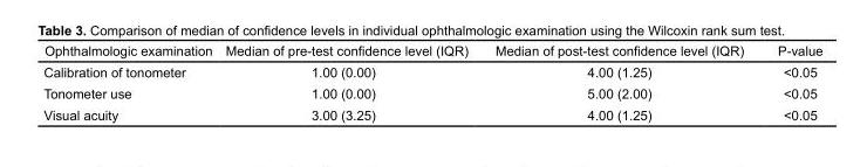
<table><thead><tr><td>Ophthalmologic examination</td><td>Median of pre-test confidence level (IQR)</td><td>Median of post-test confidence level (IQR)</td><td>P-value</td></tr></thead><tbody><tr><td>Calibration of tonometer</td><td>1.00 (0.00)</td><td>4.00 (1.25)</td><td>&lt;0.05</td></tr><tr><td>Tonometer use</td><td>1.00 (0.00)</td><td>5.00 (2.00)</td><td>&lt;0.05</td></tr><tr><td>Visual acuity</td><td>3.00 (3.25)</td><td>4.00 (1.25)</td><td>&lt;0.05</td></tr></tbody></table>